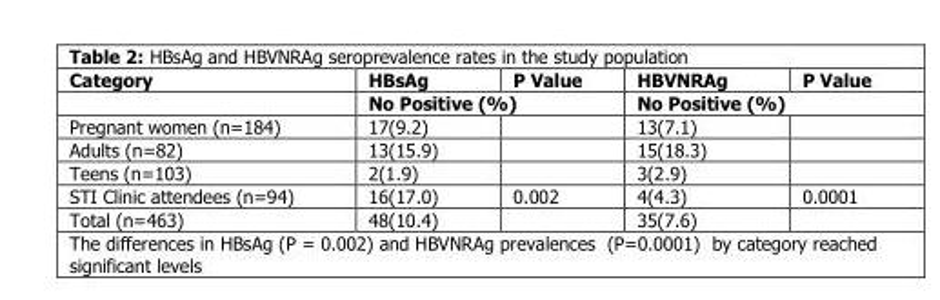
<table><thead><tr><td rowspan="2">Category</td><td>HBsAg</td><td>P Value</td><td>HBVNRAg</td><td>P Value</td></tr><tr><td colspan="2">No Positive (%)</td><td colspan="2">No Positive (%)</td></tr></thead><tbody><tr><td>Pregnant women (n=184)</td><td>17(9.2)</td><td></td><td>13(7.1)</td><td></td></tr><tr><td>Adults (n=82)</td><td>13(15.9)</td><td></td><td>15(18.3)</td><td></td></tr><tr><td>Teens (n=103)</td><td>2(1.9)</td><td></td><td>3(2.9)</td><td></td></tr><tr><td>STI Clinic attendees (n=94)</td><td>16(17.0)</td><td>0.002</td><td>4(4.3)</td><td>0.0001</td></tr><tr><td>Total (n=463)</td><td>48(10.4)</td><td></td><td>35(7.6)</td><td></td></tr></tbody></table>